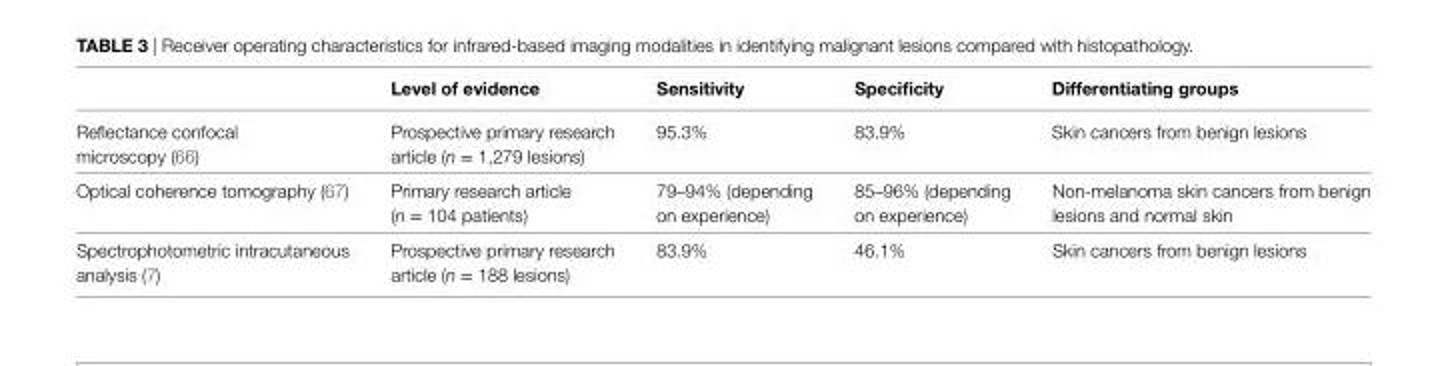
<table><thead><tr><td></td><td>level of evidence</td><td>Sensitivity</td><td>Specificity</td><td>Differentiating groups</td></tr></thead><tbody><tr><td>Reflectance confocal microscopy (66)</td><td>Prospective primary research article (n = 1,279 lesions)</td><td>95.3%</td><td>83.9%</td><td>Skin cancers from benign lesions</td></tr><tr><td>Optical coherence tomography (67)</td><td>Primary research article (n = 104 patients)</td><td>79–94% (depending on experience)</td><td>85–96% (depending on experience)</td><td>Non-melanoma skin cancers from benign lesions and normal skin</td></tr><tr><td>Spectrophotometric intracutaneous analysis (7)</td><td>Prospective primary research article (n = 188 lesions)</td><td>83.9%</td><td>46.1%</td><td>Skin cancers from benign lesions</td></tr></tbody></table>